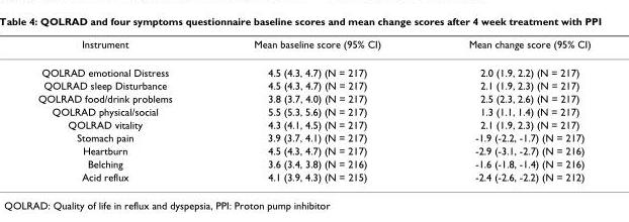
<table><thead><tr><td>Instrument</td><td>Mean baseline score (95% CI)</td><td>Mean change score (95% CI)</td></tr></thead><tbody><tr><td>QOLRAD emotional Distress</td><td>4.5 (4.3, 4.7) (N = 217)</td><td>2.0 (1.9, 2.2) (N = 217)</td></tr><tr><td>QOLRAD sleep Disturbance</td><td>4.5 (4.3, 4.7) (N = 217)</td><td>2.1 (1.9, 2.3) (N = 217)</td></tr><tr><td>QOLRAD food/drink problems</td><td>3.8 (3.7, 4.0) (N = 217)</td><td>2.5 (2.3, 2.6) (N = 217)</td></tr><tr><td>QOLRAD physical/social</td><td>5.5 (5.3, 5.6) (N = 217)</td><td>1.3 (1.1, 1.4) (N = 217)</td></tr><tr><td>QOLRAD vitality</td><td>4.3 (4.1, 4.5) (N = 217)</td><td>2.1 (1.9, 2.3) (N = 217)</td></tr><tr><td>Stomach pain</td><td>3.9 (3.7, 4.1) (N = 217)</td><td>-1.9 (-2.2, -1.7) (N = 217)</td></tr><tr><td>Heartburn</td><td>4.5 (4.3, 4.7) (N = 217)</td><td>-2.9 (-3.1, -2.7) (N = 216)</td></tr><tr><td>Belching</td><td>3.6 (3.4, 3.8) (N = 216)</td><td>-1.6 (-1.8, -1.4) (N = 216)</td></tr><tr><td>Acid reflux</td><td>4.1 (3.9, 4.3) (N = 215)</td><td>-2.4 (-2.6, -2.2) (N = 212)</td></tr></tbody></table>